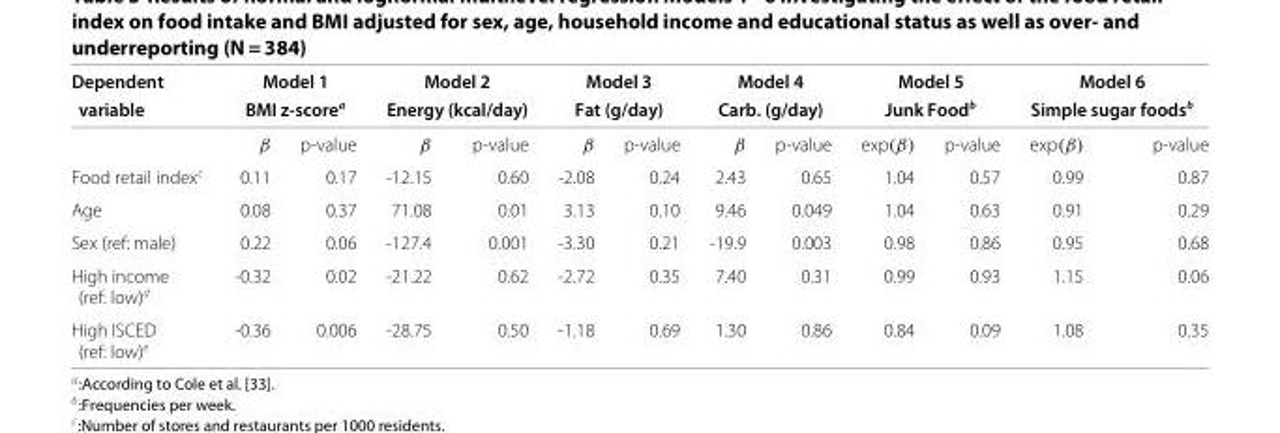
<table><thead><tr><td rowspan="2">Dependent variable</td><td colspan="2">Model 1 BMI z-score<sup>a</sup></td><td colspan="2">Model 2 Energy (kcal/day)</td><td colspan="2">Model 3 Fat (g/day)</td><td colspan="2">Model 4 Carb. (g/day)</td><td colspan="2">Model 5 Junk Food<sup>b</sup></td><td colspan="2">Model 6 Simple sugar foods<sup>b</sup></td></tr><tr><td>β</td><td>p-value</td><td>β</td><td>p-value</td><td>β</td><td>p-value</td><td>β</td><td>p-value</td><td>exp(β)</td><td>p-value</td><td>exp(β)</td><td>p-value</td></tr></thead><tbody><tr><td>Food retail index<sup>c</sup></td><td>0.11</td><td>0.17</td><td>-12.15</td><td>0.60</td><td>-2.08</td><td>0.24</td><td>2.43</td><td>0.65</td><td>1.04</td><td>0.57</td><td>0.99</td><td>0.87</td></tr><tr><td>Age</td><td>0.08</td><td>0.37</td><td>71.08</td><td>0.01</td><td>3.13</td><td>0.10</td><td>9.46</td><td>0.049</td><td>1.04</td><td>0.63</td><td>0.91</td><td>0.29</td></tr><tr><td>Sex (ref: male)</td><td>0.22</td><td>0.06</td><td>-127.4</td><td>0.001</td><td>-3.30</td><td>0.21</td><td>-19.9</td><td>0.003</td><td>0.98</td><td>0.86</td><td>0.95</td><td>0.68</td></tr><tr><td>High income (ref: low)<sup>d</sup></td><td>-0.32</td><td>0.02</td><td>-21.22</td><td>0.62</td><td>-2.72</td><td>0.35</td><td>7.40</td><td>0.31</td><td>0.99</td><td>0.93</td><td>1.15</td><td>0.06</td></tr><tr><td>High ISCED (ref: low)<sup>e</sup></td><td>-0.36</td><td>0.006</td><td>-28.75</td><td>0.50</td><td>-1.18</td><td>0.69</td><td>1.30</td><td>0.86</td><td>0.84</td><td>0.09</td><td>1.08</td><td>0.35</td></tr></tbody></table>